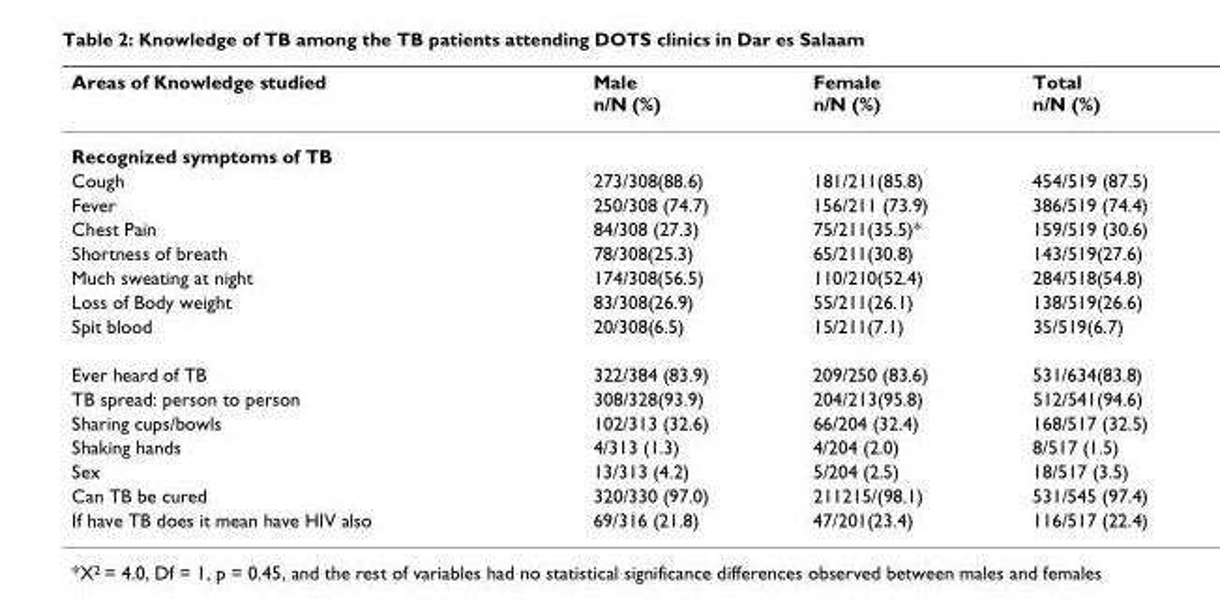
<table><thead><tr><td>Areas of Knowledge studied</td><td>Male n/N (%)</td><td>Female n/N (%)</td><td>Total n/N (%)</td></tr></thead><tbody><tr><td colspan="4">Recognized symptoms of TB</td></tr><tr><td>Cough</td><td>273/308(88.6)</td><td>181/211(85.8)</td><td>454/519 (87.5)</td></tr><tr><td>Fever</td><td>250/308 (74.7)</td><td>156/211 (73.9)</td><td>386/519 (74.4)</td></tr><tr><td>Chest Pain</td><td>84/308 (27.3)</td><td>75/211(35.5)*</td><td>159/519 (30.6)</td></tr><tr><td>Shortness of breath</td><td>78/308(25.3)</td><td>65/211(30.8)</td><td>143/519(27.6)</td></tr><tr><td>Much sweating at night</td><td>174/308(56.5)</td><td>110/210(52.4)</td><td>284/518(54.8)</td></tr><tr><td>Loss of Body weight</td><td>83/308(26.9)</td><td>55/211(26.1)</td><td>138/519(26.6)</td></tr><tr><td>Spit blood</td><td>20/308(6.5)</td><td>15/211(7.1)</td><td>35/519(6.7)</td></tr><tr><td>Ever heard of TB</td><td>322/384 (83.9)</td><td>209/250 (83.6)</td><td>531/634(83.8)</td></tr><tr><td>TB spread: person to person</td><td>308/328(93.9)</td><td>204/213(95.8)</td><td>512/541(94.6)</td></tr><tr><td>Sharing cups/bowls</td><td>102/313 (32.6)</td><td>66/204 (32.4)</td><td>168/517 (32.5)</td></tr><tr><td>Shaking hands</td><td>4/313 (1.3)</td><td>4/204 (2.0)</td><td>8/517 (1.5)</td></tr><tr><td>Sex</td><td>13/313 (4.2)</td><td>5/204 (2.5)</td><td>18/517 (3.5)</td></tr><tr><td>Can TB be cured</td><td>320/330 (97.0)</td><td>211215/(98.1)</td><td>531/545 (97.4)</td></tr><tr><td>If have TB does it mean have HIV also</td><td>69/316 (21.8)</td><td>47/201(23.4)</td><td>116/517 (22.4)</td></tr></tbody></table>